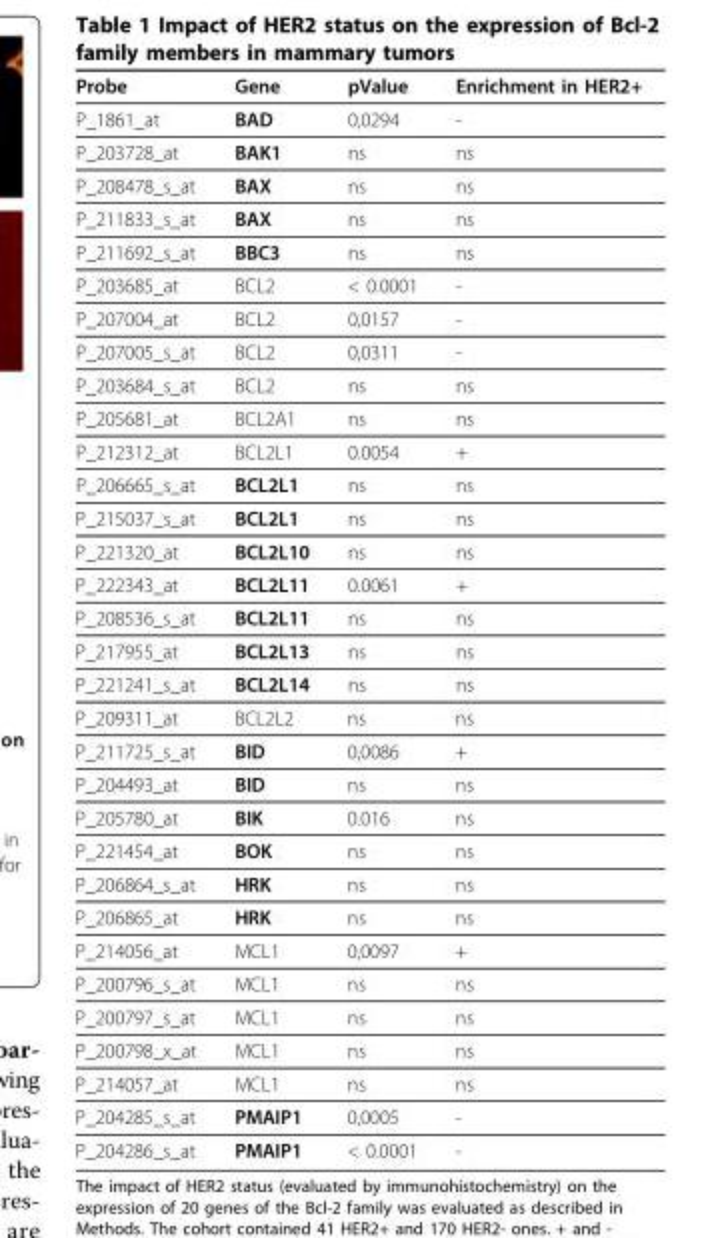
<table><thead><tr><td>Probe</td><td>Gene</td><td>pValue</td><td>Enrichment in HER2+</td></tr></thead><tbody><tr><td>P_1861_at</td><td>BAD</td><td>0,0294</td><td>-</td></tr><tr><td>P_203728_at</td><td>BAK1</td><td>ns</td><td>ns</td></tr><tr><td>P_208478_s_at</td><td>BAX</td><td>ns</td><td>ns</td></tr><tr><td>P_211833_s_at</td><td>BAX</td><td>ns</td><td>ns</td></tr><tr><td>P_211692_s_at</td><td>BBC3</td><td>ns</td><td>ns</td></tr><tr><td>P_203685_at</td><td>BCL2</td><td>&lt; 0.0001</td><td>-</td></tr><tr><td>P_207004_at</td><td>BCL2</td><td>0,0157</td><td>-</td></tr><tr><td>P_207005_s_at</td><td>BCL2</td><td>0,0311</td><td>-</td></tr><tr><td>P_203684_s_at</td><td>BCL2</td><td>ns</td><td>ns</td></tr><tr><td>P_205681_at</td><td>BCL2A1</td><td>ns</td><td>ns</td></tr><tr><td>P_212312_at</td><td>BCL2L1</td><td>0.0054</td><td>+</td></tr><tr><td>P_206665_s_at</td><td>BCL2L1</td><td>ns</td><td>ns</td></tr><tr><td>P_215037_s_at</td><td>BCL2L1</td><td>ns</td><td>ns</td></tr><tr><td>P_221320_at</td><td>BCL2L10</td><td>ns</td><td>ns</td></tr><tr><td>P_222343_at</td><td>BCL2L11</td><td>0.0061</td><td>+</td></tr><tr><td>P_208536_s_at</td><td>BCL2L11</td><td>ns</td><td>ns</td></tr><tr><td>P_217955_at</td><td>BCL2L13</td><td>ns</td><td>ns</td></tr><tr><td>P_221241_s_at</td><td>BCL2L14</td><td>ns</td><td>ns</td></tr><tr><td>P_209311_at</td><td>BCL2L2</td><td>ns</td><td>ns</td></tr><tr><td>P_211725_s_at</td><td>BID</td><td>0,0086</td><td>+</td></tr><tr><td>P_204493_at</td><td>BID</td><td>ns</td><td>ns</td></tr><tr><td>P_205780_at</td><td>BIK</td><td>0.016</td><td>ns</td></tr><tr><td>P_221454_at</td><td>BOK</td><td>ns</td><td>ns</td></tr><tr><td>P_206864_s_at</td><td>HRK</td><td>ns</td><td>ns</td></tr><tr><td>P_206865_at</td><td>HRK</td><td>ns</td><td>ns</td></tr><tr><td>P_214056_at</td><td>MCL1</td><td>0,0097</td><td>+</td></tr><tr><td>P_200796_s_at</td><td>MCL1</td><td>ns</td><td>ns</td></tr><tr><td>P_200797_s_at</td><td>MCL1</td><td>ns</td><td>ns</td></tr><tr><td>P_200798_x_at</td><td>MCL1</td><td>ns</td><td>ns</td></tr><tr><td>P_214057_at</td><td>MCL1</td><td>ns</td><td>ns</td></tr><tr><td>P_204285_s_at</td><td>PMAIP1</td><td>0,0005</td><td>-</td></tr><tr><td>P_204286_s_at</td><td>PMAIP1</td><td>&lt; 0.0001</td><td>-</td></tr></tbody></table>